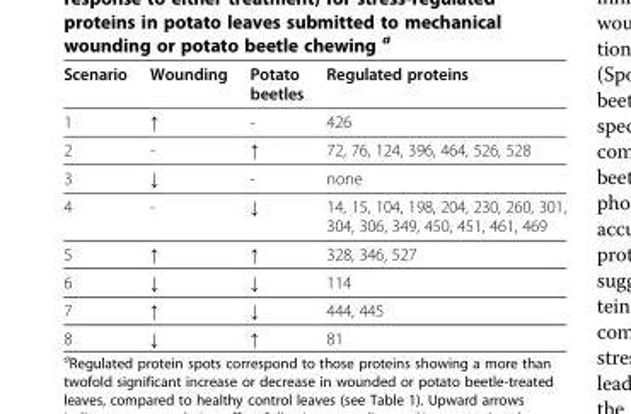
<table><thead><tr><td>Scenario</td><td>Wounding</td><td>Potato beetles</td><td>Regulated proteins</td></tr></thead><tbody><tr><td>1</td><td>↑</td><td>-</td><td>426</td></tr><tr><td>2</td><td>-</td><td>↑</td><td>72, 76, 124, 396, 464, 526, 528</td></tr><tr><td>3</td><td>↓</td><td>-</td><td>none</td></tr><tr><td>4</td><td>-</td><td>↓</td><td>14, 15, 104, 198, 204, 230, 260, 301, 304, 306, 349, 450, 451, 461, 469</td></tr><tr><td>5</td><td>↑</td><td>↑</td><td>328, 346, 527</td></tr><tr><td>6</td><td>↓</td><td>↓</td><td>114</td></tr><tr><td>7</td><td>↑</td><td>↓</td><td>444, 445</td></tr><tr><td>8</td><td>↓</td><td>↑</td><td>81</td></tr></tbody></table>